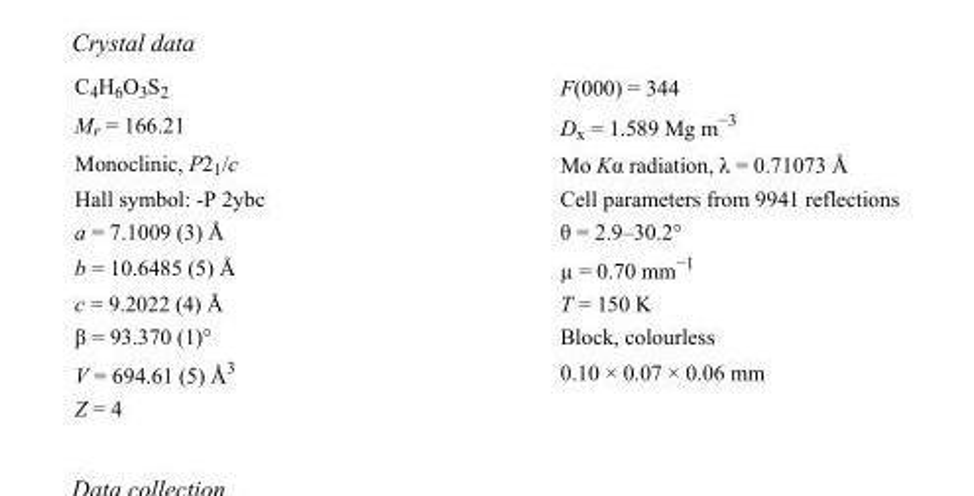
<table><tbody><tr><td>C<sub>4</sub>H<sub>6</sub>O<sub>3</sub>S<sub>2</sub></td><td>F(000) = 344</td></tr><tr><td>M<sub>r</sub> = 166.21</td><td>D<sub>x</sub> = 1.589 Mg m<sup>−3</sup></td></tr><tr><td>Monoclinic, P2<sub>1</sub>/c</td><td>Mo Kα radiation, λ = 0.71073 Å</td></tr><tr><td>Hall symbol: -P 2ybc</td><td>Cell parameters from 9941 reflections</td></tr><tr><td>a = 7.1009 (3) Å</td><td>θ = 2.9–30.2°</td></tr><tr><td>b = 10.6485 (5) Å</td><td>µ = 0.70 mm<sup>−1</sup></td></tr><tr><td>c = 9.2022 (4) Å</td><td>T = 150 K</td></tr><tr><td>β = 93.370 (1)°</td><td>Block, colourless</td></tr><tr><td>V = 694.61 (5) Å<sup>3</sup></td><td>0.10 × 0.07 × 0.06 mm</td></tr><tr><td>Z = 4</td><td></td></tr></tbody></table>